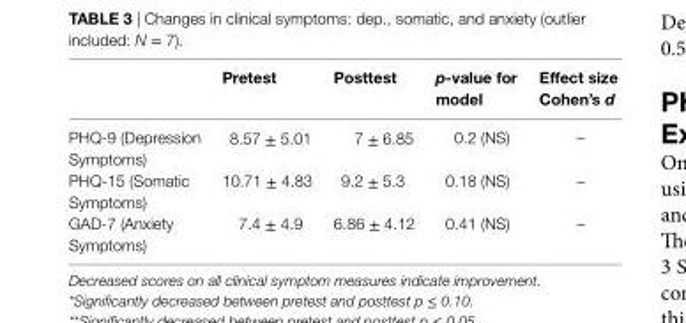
<table><thead><tr><td></td><td>Pretest</td><td>Posttest</td><td>p-value for model</td><td>effect size cohen’s d</td></tr></thead><tbody><tr><td>PHQ-9 (Depression Symptoms)</td><td>8.57 ± 5.01</td><td>7 ± 6.85</td><td>0.2 (NS)</td><td>–</td></tr><tr><td>PHQ-15 (Somatic Symptoms)</td><td>10.71 ± 4.83</td><td>9.2 ± 5.3</td><td>0.18 (NS)</td><td>–</td></tr><tr><td>GAD-7 (Anxiety Symptoms)</td><td>7.4 ± 4.9</td><td>6.86 ± 4.12</td><td>0.41 (NS)</td><td>–</td></tr></tbody></table>